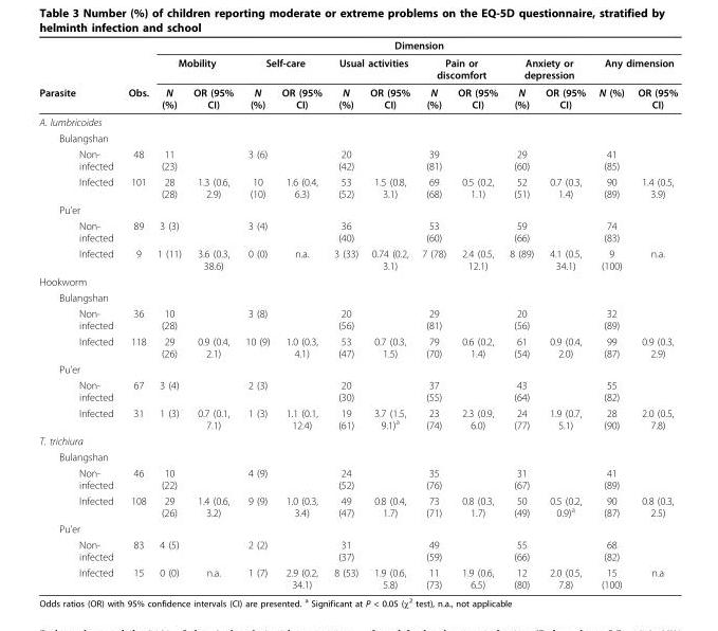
<table><thead><tr><td rowspan="3">Parasite</td><td rowspan="3">Obs.</td><td colspan="12">Dimension</td></tr><tr><td colspan="2">Mobility</td><td colspan="2">Self-care</td><td colspan="2">Usual activities</td><td colspan="2">Pain or discomfort</td><td colspan="2">Anxiety or depression</td><td colspan="2">Any dimension</td></tr><tr><td>N (%)</td><td>OR (95% CI)</td><td>N (%)</td><td>OR (95% CI)</td><td>N (%)</td><td>OR (95% CI)</td><td>N (%)</td><td>OR (95% CI)</td><td>N (%)</td><td>OR (95% CI)</td><td>N (%)</td><td>OR (95% CI)</td></tr></thead><tbody><tr><td colspan="14">A. lumbricoides</td></tr><tr><td colspan="14">Bulangshan</td></tr><tr><td>Non- infected</td><td>48</td><td>11 (23)</td><td></td><td>3 (6)</td><td></td><td>20 (42)</td><td></td><td>39 (81)</td><td></td><td>29 (60)</td><td></td><td>41 (85)</td><td></td></tr><tr><td>Infected</td><td>101</td><td>28 (28)</td><td>1.3 (0.6, 2.9)</td><td>10 (10)</td><td>1.6 (0.4, 6.3)</td><td>53 (52)</td><td>1.5 (0.8, 3.1)</td><td>69 (68)</td><td>0.5 (0.2, 1.1)</td><td>52 (51)</td><td>0.7 (0.3, 1.4)</td><td>90 (89)</td><td>1.4 (0.5, 3.9)</td></tr><tr><td colspan="14">Pu’er</td></tr><tr><td>Non- infected</td><td>89</td><td>3 (3)</td><td></td><td>3 (4)</td><td></td><td>36 (40)</td><td></td><td>53 (60)</td><td></td><td>59 (66)</td><td></td><td>74 (83)</td><td></td></tr><tr><td>Infected</td><td>9</td><td>1 (11)</td><td>3.6 (0.3, 38.6)</td><td>0 (0)</td><td>n.a.</td><td>3 (33)</td><td>0.74 (0.2, 3.1)</td><td>7 (78)</td><td>2.4 (0.5, 12.1)</td><td>8 (89)</td><td>4.1 (0.5, 34.1)</td><td>9 (100)</td><td>n.a.</td></tr><tr><td colspan="14">Hookworm</td></tr><tr><td colspan="14">Bulangshan</td></tr><tr><td>Non- infected</td><td>36</td><td>10 (28)</td><td></td><td>3 (8)</td><td></td><td>20 (56)</td><td></td><td>29 (81)</td><td></td><td>20 (56)</td><td></td><td>32 (89)</td><td></td></tr><tr><td>Infected</td><td>118</td><td>29 (26)</td><td>0.9 (0.4, 2.1)</td><td>10 (9)</td><td>1.0 (0.3, 4.1)</td><td>53 (47)</td><td>0.7 (0.3, 1.5)</td><td>79 (70)</td><td>0.6 (0.2, 1.4)</td><td>61 (54)</td><td>0.9 (0.4, 2.0)</td><td>99 (87)</td><td>0.9 (0.3, 2.9)</td></tr><tr><td colspan="14">Pu’er</td></tr><tr><td>Non- infected</td><td>67</td><td>3 (4)</td><td></td><td>2 (3)</td><td></td><td>20 (30)</td><td></td><td>37 (55)</td><td></td><td>43 (64)</td><td></td><td>55 (82)</td><td></td></tr><tr><td>Infected</td><td>31</td><td>1 (3)</td><td>0.7 (0.1, 7.1)</td><td>1 (3)</td><td>1.1 (0.1, 12.4)</td><td>19 (61)</td><td>3.7 (1.5, 9.1)<sup>a</sup></td><td>23 (74)</td><td>2.3 (0.9, 6.0)</td><td>24 (77)</td><td>1.9 (0.7, 5.1)</td><td>28 (90)</td><td>2.0 (0.5, 7.8)</td></tr><tr><td colspan="14">T. trichiura</td></tr><tr><td colspan="14">Bulangshan</td></tr><tr><td>Non- infected</td><td>46</td><td>10 (22)</td><td></td><td>4 (9)</td><td></td><td>24 (52)</td><td></td><td>35 (76)</td><td></td><td>31 (67)</td><td></td><td>41 (89)</td><td></td></tr><tr><td>Infected</td><td>108</td><td>29 (26)</td><td>1.4 (0.6, 3.2)</td><td>9 (9)</td><td>1.0 (0.3, 3.4)</td><td>49 (47)</td><td>0.8 (0.4, 1.7)</td><td>73 (71)</td><td>0.8 (0.3, 1.7)</td><td>50 (49)</td><td>0.5 (0.2, 0.9)<sup>a</sup></td><td>90 (87)</td><td>0.8 (0.3, 2.5)</td></tr><tr><td colspan="14">Pu’er</td></tr><tr><td>Non- infected</td><td>83</td><td>4 (5)</td><td></td><td>2 (2)</td><td></td><td>31 (37)</td><td></td><td>49 (59)</td><td></td><td>55 (66)</td><td></td><td>68 (82)</td><td></td></tr><tr><td>Infected</td><td>15</td><td>0 (0)</td><td>n.a.</td><td>1 (7)</td><td>2.9 (0.2, 34.1)</td><td>8 (53)</td><td>1.9 (0.6, 5.8)</td><td>11 (73)</td><td>1.9 (0.6, 6.5)</td><td>12 (80)</td><td>2.0 (0.5, 7.8)</td><td>15 (100)</td><td>n.a</td></tr></tbody></table>